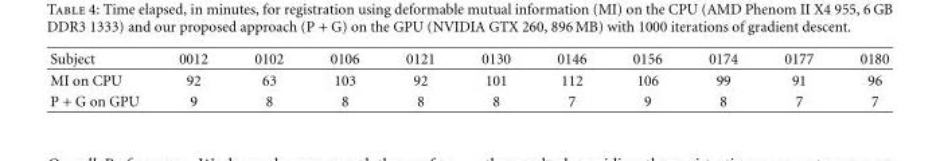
<table><thead><tr><td>Subject</td><td>0012</td><td>0102</td><td>0106</td><td>0121</td><td>0130</td><td>0146</td><td>0156</td><td>0174</td><td>0177</td><td>0180</td></tr></thead><tbody><tr><td>MI on CPU</td><td>92</td><td>63</td><td>103</td><td>92</td><td>101</td><td>112</td><td>106</td><td>99</td><td>91</td><td>96</td></tr><tr><td>P + G on GPU</td><td>9</td><td>8</td><td>8</td><td>8</td><td>8</td><td>7</td><td>9</td><td>8</td><td>7</td><td>7</td></tr></tbody></table>